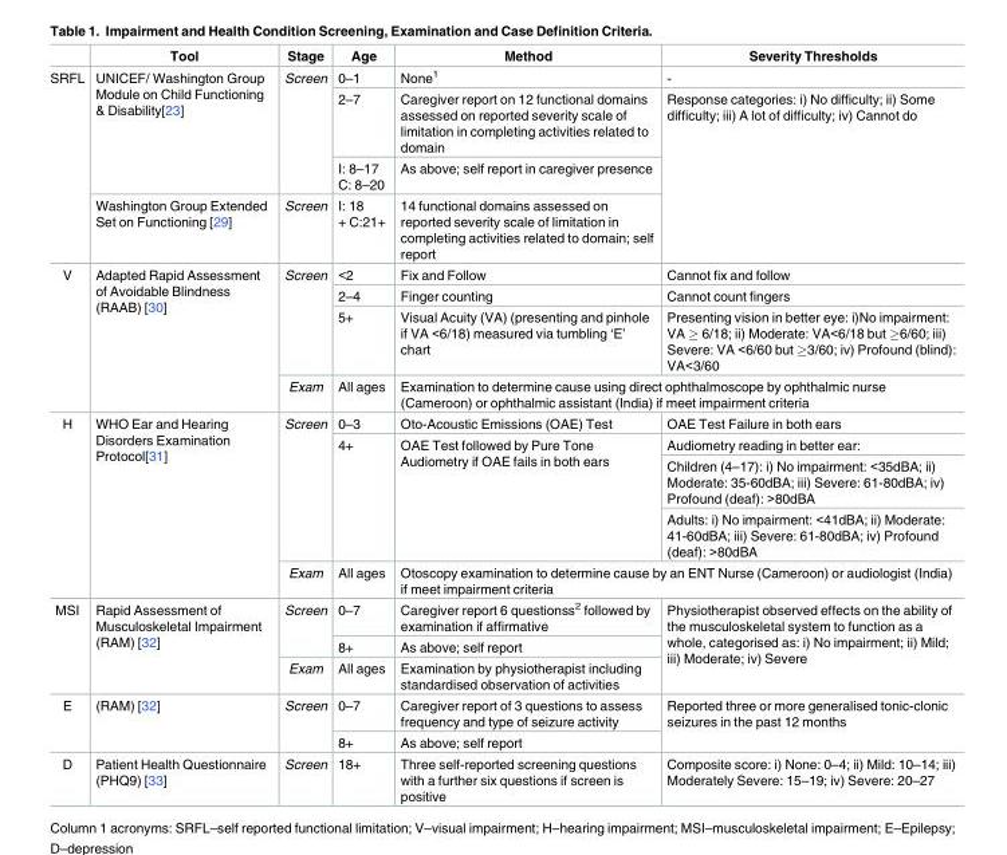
<table><thead><tr><td></td><td>Tool</td><td>Stage</td><td>Age</td><td>Method</td><td>Severity Thresholds</td></tr></thead><tbody><tr><td rowspan="4">SRFL</td><td rowspan="3">UNICEF/ Washington Group Module on Child Functioning &amp; Disability[23]</td><td rowspan="3">Screen</td><td>0–1</td><td>None<sup>1</sup></td><td>-</td></tr><tr><td>2–7</td><td>Caregiver report on 12 functional domains assessed on reported severity scale of limitation in completing activities related to domain</td><td rowspan="3">Response categories: i) No difficulty; ii) Some difficulty; iii) A lot of difficulty; iv) Cannot do</td></tr><tr><td>I: 8–17 C: 8–20</td><td>As above; self report in caregiver presence</td></tr><tr><td>Washington Group Extended Set on Functioning [29]</td><td>Screen</td><td>I: 18 + C:21+</td><td>14 functional domains assessed on reported severity scale of limitation in completing activities related to domain; self report</td></tr><tr><td rowspan="4">V</td><td rowspan="4">Adapted Rapid Assessment of Avoidable Blindness (RAAB) [30]</td><td rowspan="3">Screen</td><td>&lt;2</td><td>Fix and Follow</td><td>Cannot fix and follow</td></tr><tr><td>2–4</td><td>Finger counting</td><td>Cannot count fingers</td></tr><tr><td>5+</td><td>Visual Acuity (VA) (presenting and pinhole if VA &lt;6/18) measured via tumbling ‘E’ chart</td><td>Presenting vision in better eye: i)No impairment: VA ≥ 6/18; ii) Moderate: VA&lt;6/18 but ≥6/60; iii) Severe: VA &lt;6/60 but ≥3/60; iv) Profound (blind): VA&lt;3/60</td></tr><tr><td>Exam</td><td>All ages</td><td colspan="2">Examination to determine cause using direct ophthalmoscope by ophthalmic nurse (Cameroon) or ophthalmic assistant (India) if meet impairment criteria</td></tr><tr><td rowspan="5">H</td><td rowspan="5">WHO Ear and Hearing Disorders Examination Protocol[31]</td><td rowspan="4">Screen</td><td>0–3</td><td>Oto-Acoustic Emissions (OAE) Test</td><td>OAE Test Failure in both ears</td></tr><tr><td rowspan="3">4+</td><td rowspan="3">OAE Test followed by Pure Tone Audiometry if OAE fails in both ears</td><td>Audiometry reading in better ear:</td></tr><tr><td>Children (4–17): i) No impairment: &lt;35dBA; ii) Moderate: 35-60dBA; iii) Severe: 61-80dBA; iv) Profound (deaf): &gt;80dBA</td></tr><tr><td>Adults: i) No impairment: &lt;41dBA; ii) Moderate: 41-60dBA; iii) Severe: 61-80dBA; iv) Profound (deaf): &gt;80dBA</td></tr><tr><td>Exam</td><td>All ages</td><td colspan="2">Otoscopy examination to determine cause by an ENT Nurse (Cameroon) or audiologist (India) if meet impairment criteria</td></tr><tr><td rowspan="3">MSI</td><td rowspan="3">Rapid Assessment of Musculoskeletal Impairment (RAM) [32]</td><td rowspan="2">Screen</td><td>0–7</td><td>Caregiver report 6 questionss<sup>2</sup> followed by examination if affirmative</td><td rowspan="3">Physiotherapist observed effects on the ability of the musculoskeletal system to function as a whole, categorised as: i) No impairment; ii) Mild; iii) Moderate; iv) Severe</td></tr><tr><td>8+</td><td>As above; self report</td></tr><tr><td>Exam</td><td>All ages</td><td>Examination by physiotherapist including standardised observation of activities</td></tr><tr><td rowspan="2">E</td><td rowspan="2">(RAM) [32]</td><td rowspan="2">Screen</td><td>0–7</td><td>Caregiver report of 3 questions to assess frequency and type of seizure activity</td><td rowspan="2">Reported three or more generalised tonic-clonic seizures in the past 12 months</td></tr><tr><td>8+</td><td>As above; self report</td></tr><tr><td>D</td><td>Patient Health Questionnaire (PHQ9) [33]</td><td>Screen</td><td>18+</td><td>Three self-reported screening questions with a further six questions if screen is positive</td><td>Composite score: i) None: 0–4; ii) Mild: 10–14; iii) Moderately Severe: 15–19; iv) Severe: 20–27</td></tr></tbody></table>